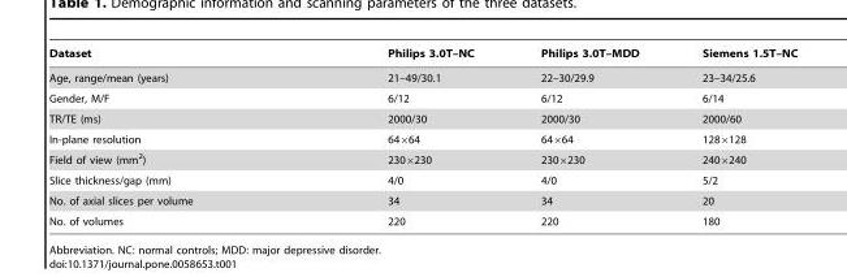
<table><thead><tr><td>Dataset</td><td>Philips 3.0T–NC</td><td>Philips 3.0T–MDD</td><td>Siemens 1.5T–NC</td></tr></thead><tbody><tr><td>Age, range/mean (years)</td><td>21–49/30.1</td><td>22–30/29.9</td><td>23–34/25.6</td></tr><tr><td>Gender, M/F</td><td>6/12</td><td>6/12</td><td>6/14</td></tr><tr><td>TR/TE (ms)</td><td>2000/30</td><td>2000/30</td><td>2000/60</td></tr><tr><td>In-plane resolution</td><td>64×64</td><td>64×64</td><td>128×128</td></tr><tr><td>Field of view (mm<sup>2</sup>)</td><td>230×230</td><td>230×230</td><td>240×240</td></tr><tr><td>Slice thickness/gap (mm)</td><td>4/0</td><td>4/0</td><td>5/2</td></tr><tr><td>No. of axial slices per volume</td><td>34</td><td>34</td><td>20</td></tr><tr><td>No. of volumes</td><td>220</td><td>220</td><td>180</td></tr></tbody></table>